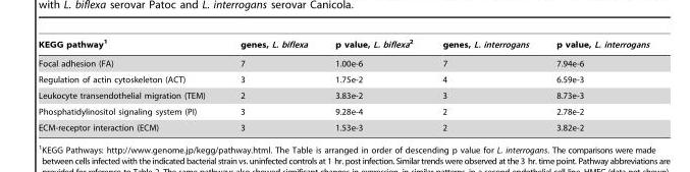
<table><thead><tr><td>KEGG pathway<sup>1</sup></td><td>genes, L. biflexa</td><td>p value, L. biflexa2</td><td>genes, L. interrogans</td><td>p value, L. interrogans</td></tr></thead><tbody><tr><td>Focal adhesion (FA)</td><td>7</td><td>1.00e-6</td><td>7</td><td>7.94e-6</td></tr><tr><td>Regulation of actin cytoskeleton (ACT)</td><td>3</td><td>1.75e-2</td><td>4</td><td>6.59e-3</td></tr><tr><td>Leukocyte transendothelial migration (TEM)</td><td>2</td><td>3.83e-2</td><td>3</td><td>8.73e-3</td></tr><tr><td>Phosphatidylinositol signaling system (PI)</td><td>3</td><td>9.28e-4</td><td>2</td><td>2.78e-2</td></tr><tr><td>ECM-receptor interaction (ECM)</td><td>3</td><td>1.53e-3</td><td>2</td><td>3.82e-2</td></tr></tbody></table>